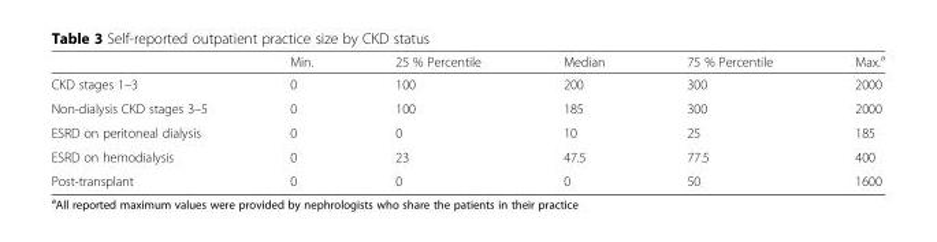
<table><thead><tr><td></td><td>Min.</td><td>25 % Percentile</td><td>Median</td><td>75 % Percentile</td><td>Max.<sup>a</sup></td></tr></thead><tbody><tr><td>CKD stages 1–3</td><td>0</td><td>100</td><td>200</td><td>300</td><td>2000</td></tr><tr><td>Non-dialysis CKD stages 3–5</td><td>0</td><td>100</td><td>185</td><td>300</td><td>2000</td></tr><tr><td>ESRD on peritoneal dialysis</td><td>0</td><td>0</td><td>10</td><td>25</td><td>185</td></tr><tr><td>ESRD on hemodialysis</td><td>0</td><td>23</td><td>47.5</td><td>77.5</td><td>400</td></tr><tr><td>Post-transplant</td><td>0</td><td>0</td><td>0</td><td>50</td><td>1600</td></tr></tbody></table>